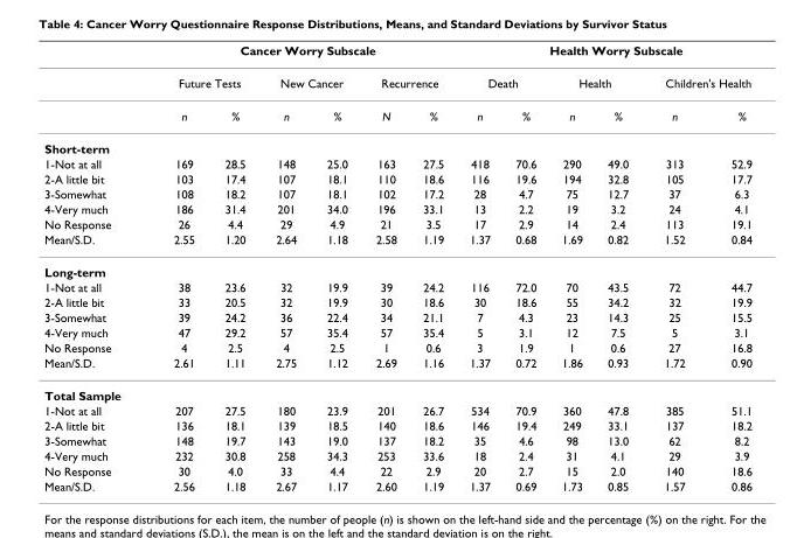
<table><thead><tr><td rowspan="3"></td><td colspan="6">Cancer Worry Subscale</td><td colspan="6">Health Worry Subscale</td></tr><tr><td colspan="2">Future Tests</td><td colspan="2">New Cancer</td><td colspan="2">Recurrence</td><td colspan="2">Death</td><td colspan="2">Health</td><td colspan="2">Children&#x27;s Health</td></tr><tr><td>n</td><td>%</td><td>n</td><td>%</td><td>N</td><td>%</td><td>n</td><td>%</td><td>n</td><td>%</td><td>n</td><td>%</td></tr></thead><tbody><tr><td colspan="13">Short-term</td></tr><tr><td>1-Not at all</td><td>169</td><td>28.5</td><td>148</td><td>25.0</td><td>163</td><td>27.5</td><td>418</td><td>70.6</td><td>290</td><td>49.0</td><td>313</td><td>52.9</td></tr><tr><td>2-A little bit</td><td>103</td><td>17.4</td><td>107</td><td>18.1</td><td>110</td><td>18.6</td><td>116</td><td>19.6</td><td>194</td><td>32.8</td><td>105</td><td>17.7</td></tr><tr><td>3-Somewhat</td><td>108</td><td>18.2</td><td>107</td><td>18.1</td><td>102</td><td>17.2</td><td>28</td><td>4.7</td><td>75</td><td>12.7</td><td>37</td><td>6.3</td></tr><tr><td>4-Very much</td><td>186</td><td>31.4</td><td>201</td><td>34.0</td><td>196</td><td>33.1</td><td>13</td><td>2.2</td><td>19</td><td>3.2</td><td>24</td><td>4.1</td></tr><tr><td>No Response</td><td>26</td><td>4.4</td><td>29</td><td>4.9</td><td>21</td><td>3.5</td><td>17</td><td>2.9</td><td>14</td><td>2.4</td><td>113</td><td>19.1</td></tr><tr><td>Mean/S.D.</td><td>2.55</td><td>1.20</td><td>2.64</td><td>1.18</td><td>2.58</td><td>1.19</td><td>1.37</td><td>0.68</td><td>1.69</td><td>0.82</td><td>1.52</td><td>0.84</td></tr><tr><td colspan="13">Long-term</td></tr><tr><td>1-Not at all</td><td>38</td><td>23.6</td><td>32</td><td>19.9</td><td>39</td><td>24.2</td><td>116</td><td>72.0</td><td>70</td><td>43.5</td><td>72</td><td>44.7</td></tr><tr><td>2-A little bit</td><td>33</td><td>20.5</td><td>32</td><td>19.9</td><td>30</td><td>18.6</td><td>30</td><td>18.6</td><td>55</td><td>34.2</td><td>32</td><td>19.9</td></tr><tr><td>3-Somewhat</td><td>39</td><td>24.2</td><td>36</td><td>22.4</td><td>34</td><td>21.1</td><td>7</td><td>4.3</td><td>23</td><td>14.3</td><td>25</td><td>15.5</td></tr><tr><td>4-Very much</td><td>47</td><td>29.2</td><td>57</td><td>35.4</td><td>57</td><td>35.4</td><td>5</td><td>3.1</td><td>12</td><td>7.5</td><td>5</td><td>3.1</td></tr><tr><td>No Response</td><td>4</td><td>2.5</td><td>4</td><td>2.5</td><td>1</td><td>0.6</td><td>3</td><td>1.9</td><td>1</td><td>0.6</td><td>27</td><td>16.8</td></tr><tr><td>Mean/S.D.</td><td>2.61</td><td>1.11</td><td>2.75</td><td>1.12</td><td>2.69</td><td>1.16</td><td>1.37</td><td>0.72</td><td>1.86</td><td>0.93</td><td>1.72</td><td>0.90</td></tr><tr><td colspan="13">Total Sample</td></tr><tr><td>1-Not at all</td><td>207</td><td>27.5</td><td>180</td><td>23.9</td><td>201</td><td>26.7</td><td>534</td><td>70.9</td><td>360</td><td>47.8</td><td>385</td><td>51.1</td></tr><tr><td>2-A little bit</td><td>136</td><td>18.1</td><td>139</td><td>18.5</td><td>140</td><td>18.6</td><td>146</td><td>19.4</td><td>249</td><td>33.1</td><td>137</td><td>18.2</td></tr><tr><td>3-Somewhat</td><td>148</td><td>19.7</td><td>143</td><td>19.0</td><td>137</td><td>18.2</td><td>35</td><td>4.6</td><td>98</td><td>13.0</td><td>62</td><td>8.2</td></tr><tr><td>4-Very much</td><td>232</td><td>30.8</td><td>258</td><td>34.3</td><td>253</td><td>33.6</td><td>18</td><td>2.4</td><td>31</td><td>4.1</td><td>29</td><td>3.9</td></tr><tr><td>No Response</td><td>30</td><td>4.0</td><td>33</td><td>4.4</td><td>22</td><td>2.9</td><td>20</td><td>2.7</td><td>15</td><td>2.0</td><td>140</td><td>18.6</td></tr><tr><td>Mean/S.D.</td><td>2.56</td><td>1.18</td><td>2.67</td><td>1.17</td><td>2.60</td><td>1.19</td><td>1.37</td><td>0.69</td><td>1.73</td><td>0.85</td><td>1.57</td><td>0.86</td></tr></tbody></table>